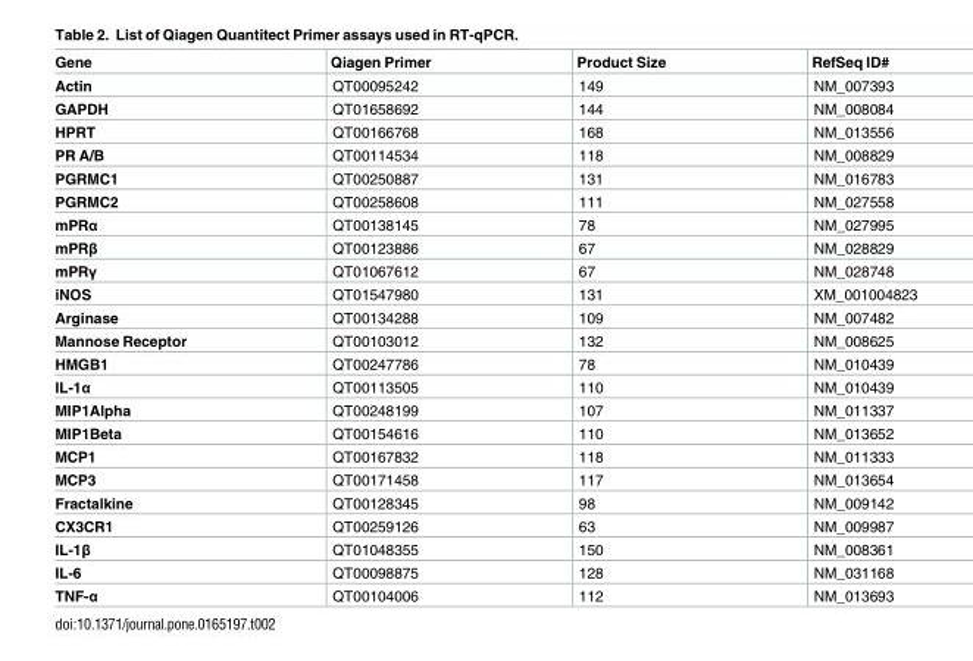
<table><thead><tr><td>Gene</td><td>Qiagen Primer</td><td>Product Size</td><td>RefSeq ID#</td></tr></thead><tbody><tr><td>Actin</td><td>QT00095242</td><td>149</td><td>NM_007393</td></tr><tr><td>GAPDH</td><td>QT01658692</td><td>144</td><td>NM_008084</td></tr><tr><td>HPRT</td><td>QT00166768</td><td>168</td><td>NM_013556</td></tr><tr><td>PR A/B</td><td>QT00114534</td><td>118</td><td>NM_008829</td></tr><tr><td>PGRMC1</td><td>QT00250887</td><td>131</td><td>NM_016783</td></tr><tr><td>PGRMC2</td><td>QT00258608</td><td>111</td><td>NM_027558</td></tr><tr><td>mPRα</td><td>QT00138145</td><td>78</td><td>NM_027995</td></tr><tr><td>mPRβ</td><td>QT00123886</td><td>67</td><td>NM_028829</td></tr><tr><td>mPRγ</td><td>QT01067612</td><td>67</td><td>NM_028748</td></tr><tr><td>iNOS</td><td>QT01547980</td><td>131</td><td>XM_001004823</td></tr><tr><td>Arginase</td><td>QT00134288</td><td>109</td><td>NM_007482</td></tr><tr><td>Mannose Receptor</td><td>QT00103012</td><td>132</td><td>NM_008625</td></tr><tr><td>HMGB1</td><td>QT00247786</td><td>78</td><td>NM_010439</td></tr><tr><td>IL-1α</td><td>QT00113505</td><td>110</td><td>NM_010439</td></tr><tr><td>MIP1Alpha</td><td>QT00248199</td><td>107</td><td>NM_011337</td></tr><tr><td>MIP1Beta</td><td>QT00154616</td><td>110</td><td>NM_013652</td></tr><tr><td>MCP1</td><td>QT00167832</td><td>118</td><td>NM_011333</td></tr><tr><td>MCP3</td><td>QT00171458</td><td>117</td><td>NM_013654</td></tr><tr><td>Fractalkine</td><td>QT00128345</td><td>98</td><td>NM_009142</td></tr><tr><td>CX3CR1</td><td>QT00259126</td><td>63</td><td>NM_009987</td></tr><tr><td>IL-1β</td><td>QT01048355</td><td>150</td><td>NM_008361</td></tr><tr><td>IL-6</td><td>QT00098875</td><td>128</td><td>NM_031168</td></tr><tr><td>TNF-α</td><td>QT00104006</td><td>112</td><td>NM_013693</td></tr></tbody></table>